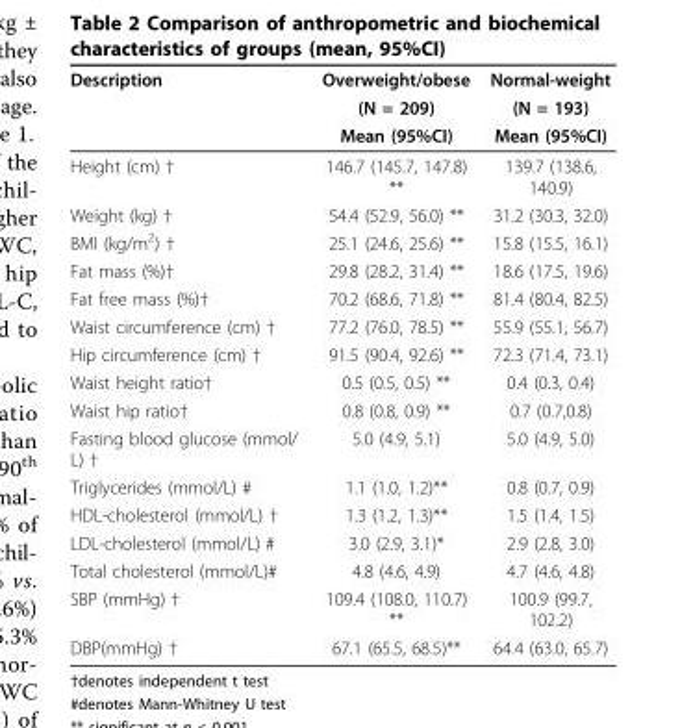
<table><thead><tr><td rowspan="3">Description</td><td rowspan="3">Overweight/obese (N = 209) Mean (95%CI)</td><td rowspan="3">Normal-weight (N = 193) Mean (95%CI)</td></tr><tr></tr><tr></tr></thead><tbody><tr><td>Height (cm) †</td><td>146.7 (145.7, 147.8) **</td><td>139.7 (138.6, 140.9)</td></tr><tr><td>Weight (kg) †</td><td>54.4 (52.9, 56.0) **</td><td>31.2 (30.3, 32.0)</td></tr><tr><td>BMI (kg/m<sup>2</sup>) †</td><td>25.1 (24.6, 25.6) **</td><td>15.8 (15.5, 16.1)</td></tr><tr><td>Fat mass (%)†</td><td>29.8 (28.2, 31.4) **</td><td>18.6 (17.5, 19.6)</td></tr><tr><td>Fat free mass (%)†</td><td>70.2 (68.6, 71.8) **</td><td>81.4 (80.4, 82.5)</td></tr><tr><td>Waist circumference (cm) †</td><td>77.2 (76.0, 78.5) **</td><td>55.9 (55.1, 56.7)</td></tr><tr><td>Hip circumference (cm) †</td><td>91.5 (90.4, 92.6) **</td><td>72.3 (71.4, 73.1)</td></tr><tr><td>Waist height ratio†</td><td>0.5 (0.5, 0.5) **</td><td>0.4 (0.3, 0.4)</td></tr><tr><td>Waist hip ratio†</td><td>0.8 (0.8, 0.9) **</td><td>0.7 (0.7,0.8)</td></tr><tr><td>Fasting blood glucose (mmol/ L) †</td><td>5.0 (4.9, 5.1)</td><td>5.0 (4.9, 5.0)</td></tr><tr><td>Triglycerides (mmol/L) #</td><td>1.1 (1.0, 1.2)**</td><td>0.8 (0.7, 0.9)</td></tr><tr><td>HDL-cholesterol (mmol/L) †</td><td>1.3 (1.2, 1.3)**</td><td>1.5 (1.4, 1.5)</td></tr><tr><td>LDL-cholesterol (mmol/L) #</td><td>3.0 (2.9, 3.1)*</td><td>2.9 (2.8, 3.0)</td></tr><tr><td>Total cholesterol (mmol/L)#</td><td>4.8 (4.6, 4.9)</td><td>4.7 (4.6, 4.8)</td></tr><tr><td>SBP (mmHg) †</td><td>109.4 (108.0, 110.7) **</td><td>100.9 (99.7, 102.2)</td></tr><tr><td>DBP(mmHg) †</td><td>67.1 (65.5, 68.5)**</td><td>64.4 (63.0, 65.7)</td></tr></tbody></table>